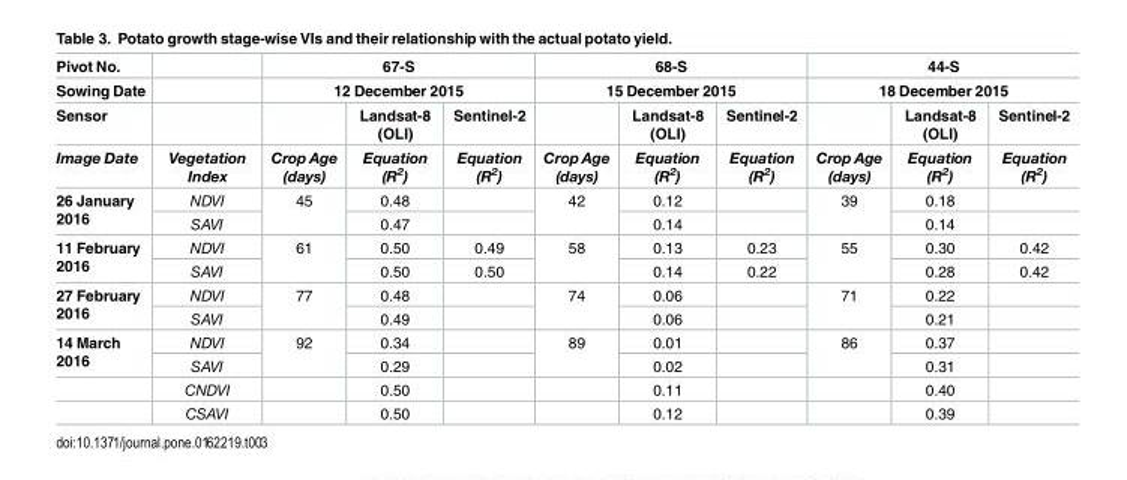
<table><thead><tr><td rowspan="4">Pivot No. Sowing Date Sensor Image Date</td><td rowspan="4">Vegetation Index</td><td rowspan="2" colspan="3">67-S 12 December 2015</td><td rowspan="2" colspan="3">68-S 15 December 2015</td><td rowspan="2" colspan="3">44-S 18 December 2015</td></tr><tr></tr><tr><td rowspan="2">Crop Age (days)</td><td rowspan="2">Landsat-8 (OLI) Equation (R<sup>2</sup>)</td><td rowspan="2">Sentinel-2 Equation (R<sup>2</sup>)</td><td rowspan="2">Crop Age (days)</td><td rowspan="2">Landsat-8 (OLI) Equation (R<sup>2</sup>)</td><td rowspan="2">Sentinel-2 Equation (R<sup>2</sup>)</td><td rowspan="2">Crop Age (days)</td><td rowspan="2">Landsat-8 (OLI) Equation (R<sup>2</sup>)</td><td rowspan="2">Sentinel-2 Equation (R<sup>2</sup>)</td></tr><tr></tr></thead><tbody><tr><td rowspan="2">26 January 2016</td><td>NDVI</td><td rowspan="2">45</td><td>0.48</td><td></td><td rowspan="2">42</td><td>0.12</td><td></td><td rowspan="2">39</td><td>0.18</td><td></td></tr><tr><td>SAVI</td><td>0.47</td><td></td><td>0.14</td><td></td><td>0.14</td><td></td></tr><tr><td rowspan="2">11 February 2016</td><td>NDVI</td><td rowspan="2">61</td><td>0.50</td><td>0.49</td><td rowspan="2">58</td><td>0.13</td><td>0.23</td><td rowspan="2">55</td><td>0.30</td><td>0.42</td></tr><tr><td>SAVI</td><td>0.50</td><td>0.50</td><td>0.14</td><td>0.22</td><td>0.28</td><td>0.42</td></tr><tr><td rowspan="2">27 February 2016</td><td>NDVI</td><td rowspan="2">77</td><td>0.48</td><td></td><td rowspan="2">74</td><td>0.06</td><td></td><td rowspan="2">71</td><td>0.22</td><td></td></tr><tr><td>SAVI</td><td>0.49</td><td></td><td>0.06</td><td></td><td>0.21</td><td></td></tr><tr><td rowspan="4">14 March 2016</td><td>NDVI</td><td rowspan="2">92</td><td>0.34</td><td></td><td rowspan="2">89</td><td>0.01</td><td></td><td rowspan="2">86</td><td>0.37</td><td></td></tr><tr><td>SAVI</td><td>0.29</td><td></td><td>0.02</td><td></td><td>0.31</td><td></td></tr><tr><td>CNDVI</td><td></td><td>0.50</td><td></td><td></td><td>0.11</td><td></td><td></td><td>0.40</td><td></td></tr><tr><td>CSAVI</td><td></td><td>0.50</td><td></td><td></td><td>0.12</td><td></td><td></td><td>0.39</td><td></td></tr></tbody></table>